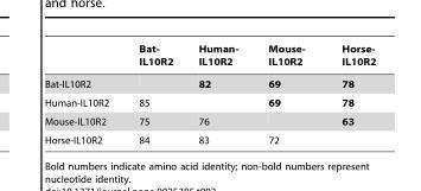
<table><thead><tr><td></td><td>Bat- IL10R2</td><td>Human- IL10R2</td><td>Mouse- IL10R2</td><td>Horse- IL10R2</td></tr></thead><tbody><tr><td>Bat-IL10R2</td><td></td><td>82</td><td>69</td><td>78</td></tr><tr><td>Human-IL10R2</td><td>85</td><td></td><td>69</td><td>78</td></tr><tr><td>Mouse-IL10R2</td><td>75</td><td>76</td><td></td><td>63</td></tr><tr><td>Horse-IL10R2</td><td>84</td><td>83</td><td>72</td><td></td></tr></tbody></table>